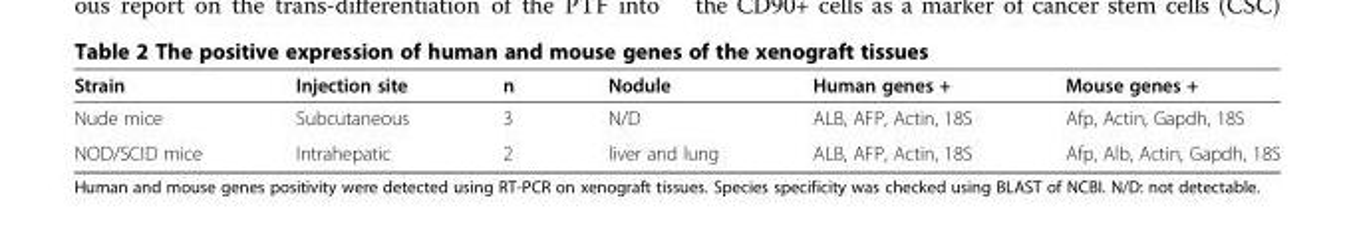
<table><thead><tr><td>Strain</td><td>Injection site</td><td>n</td><td>Nodule</td><td>Human genes +</td><td>Mouse genes +</td></tr></thead><tbody><tr><td>Nude mice</td><td>Subcutaneous</td><td>3</td><td>N/D</td><td>ALB, AFP, Actin, 18S</td><td>Afp, Actin, Gapdh, 18S</td></tr><tr><td>NOD/SCID mice</td><td>Intrahepatic</td><td>2</td><td>liver and lung</td><td>ALB, AFP, Actin, 18S</td><td>Afp, Alb, Actin, Gapdh, 18S</td></tr></tbody></table>